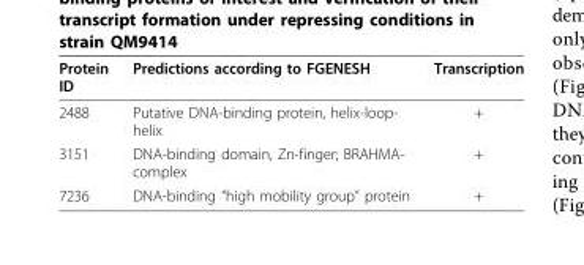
<table><thead><tr><td>Protein ID</td><td>Predictions according to FGENESH</td><td>Transcription</td></tr></thead><tbody><tr><td>2488</td><td>Putative DNA-binding protein, helix-loop- helix</td><td>+</td></tr><tr><td>3151</td><td>DNA-binding domain, Zn-finger; BRAHMA- complex</td><td>+</td></tr><tr><td>7236</td><td>DNA-binding “high mobility group” protein</td><td>+</td></tr></tbody></table>